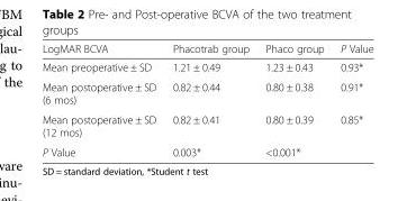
<table><thead><tr><td>LogMAR BCVA</td><td>Phacotrab group</td><td>Phaco group</td><td>P Value</td></tr></thead><tbody><tr><td>Mean preoperative ± SD</td><td>1.21 ± 0.49</td><td>1.23 ± 0.43</td><td>0.93*</td></tr><tr><td>Mean postoperative ± SD (6 mos)</td><td>0.82 ± 0.44</td><td>0.80 ± 0.38</td><td>0.91*</td></tr><tr><td>Mean postoperative ± SD (12 mos)</td><td>0.82 ± 0.41</td><td>0.80 ± 0.39</td><td>0.85*</td></tr><tr><td>P Value</td><td>0.003*</td><td>&lt;0.001*</td><td></td></tr></tbody></table>